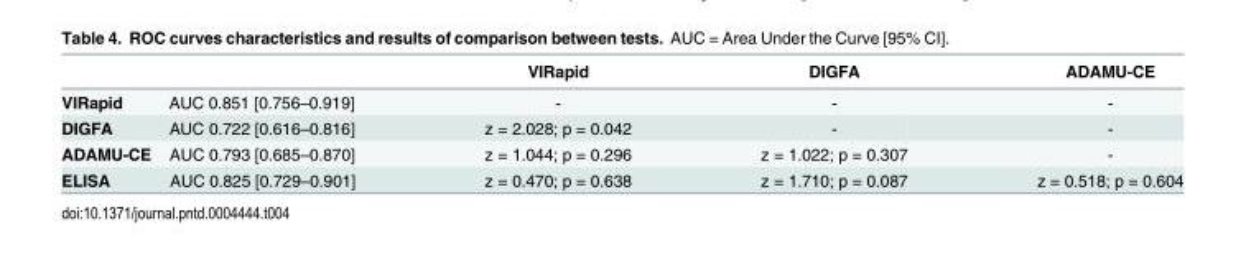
<table><thead><tr><td></td><td>VIRapid</td><td>DIGFA</td><td>ADAMU-CE</td></tr></thead><tbody><tr><td>VIRapid AUC 0.851 [0.756–0.919]</td><td>-</td><td>-</td><td>-</td></tr><tr><td>DIGFA AUC 0.722 [0.616–0.816]</td><td>z = 2.028; p = 0.042</td><td>-</td><td>-</td></tr><tr><td>ADAMU-CE AUC 0.793 [0.685–0.870]</td><td>z = 1.044; p = 0.296</td><td>z = 1.022; p = 0.307</td><td>-</td></tr><tr><td>ELISA AUC 0.825 [0.729–0.901]</td><td>z = 0.470; p = 0.638</td><td>z = 1.710; p = 0.087</td><td>z = 0.518; p = 0.604</td></tr></tbody></table>